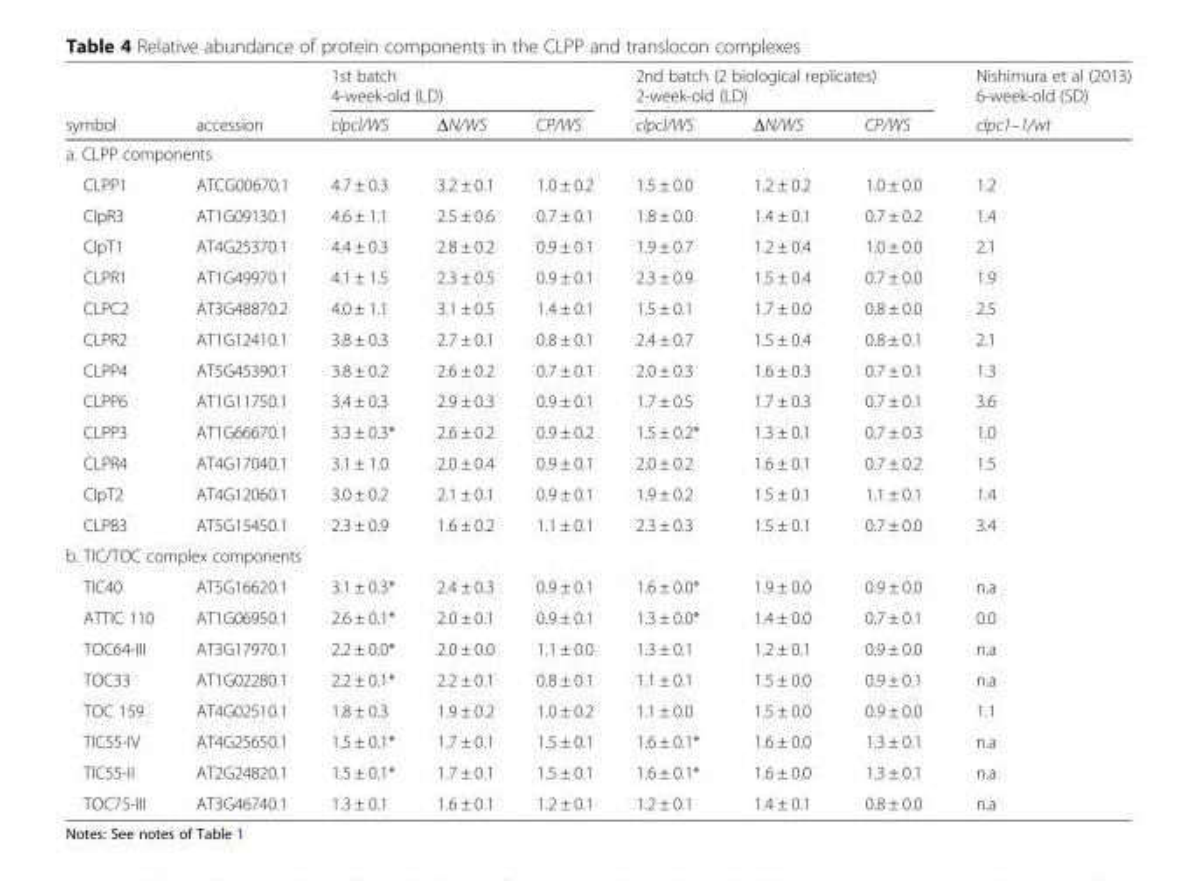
<table><thead><tr><td rowspan="2">symbol</td><td rowspan="2">accession</td><td colspan="3">1st batch 4-week-old (LD)</td><td colspan="3">2nd batch (2 biological replicates) 2-week-old (LD)</td><td rowspan="2">Nishimura et al (2013) 6-week-old (SD) clpc1–1/wt</td></tr><tr><td>clpcl/WS</td><td>ΔN/WS</td><td>CP/WS</td><td>clpcl/WS</td><td>ΔN/WS</td><td>CP/WS</td></tr></thead><tbody><tr><td colspan="9">a. CLPP components</td></tr><tr><td>CLPP1</td><td>ATCG00670.1</td><td>4.7 ± 0.3</td><td>3.2 ± 0.1</td><td>1.0 ± 0.2</td><td>1.5 ± 0.0</td><td>1.2 ± 0.2</td><td>1.0 ± 0.0</td><td>1.2</td></tr><tr><td>ClpR3</td><td>AT1G09130.1</td><td>4.6 ± 1.1</td><td>2.5 ± 0.6</td><td>0.7 ± 0.1</td><td>1.8 ± 0.0</td><td>1.4 ± 0.1</td><td>0.7 ± 0.2</td><td>1.4</td></tr><tr><td>ClpT1</td><td>AT4G25370.1</td><td>4.4 ± 0.3</td><td>2.8 ± 0.2</td><td>0.9 ± 0.1</td><td>1.9 ± 0.7</td><td>1.2 ± 0.4</td><td>1.0 ± 0.0</td><td>2.1</td></tr><tr><td>CLPR1</td><td>AT1G49970.1</td><td>4.1 ± 1.5</td><td>2.3 ± 0.5</td><td>0.9 ± 0.1</td><td>2.3 ± 0.9</td><td>1.5 ± 0.4</td><td>0.7 ± 0.0</td><td>1.9</td></tr><tr><td>CLPC2</td><td>AT3G48870.2</td><td>4.0 ± 1.1</td><td>3.1 ± 0.5</td><td>1.4 ± 0.1</td><td>1.5 ± 0.1</td><td>1.7 ± 0.0</td><td>0.8 ± 0.0</td><td>2.5</td></tr><tr><td>CLPR2</td><td>AT1G12410.1</td><td>3.8 ± 0.3</td><td>2.7 ± 0.1</td><td>0.8 ± 0.1</td><td>2.4 ± 0.7</td><td>1.5 ± 0.4</td><td>0.8 ± 0.1</td><td>2.1</td></tr><tr><td>CLPP4</td><td>AT5G45390.1</td><td>3.8 ± 0.2</td><td>2.6 ± 0.2</td><td>0.7 ± 0.1</td><td>2.0 ± 0.3</td><td>1.6 ± 0.3</td><td>0.7 ± 0.1</td><td>1.3</td></tr><tr><td>CLPP6</td><td>AT1G11750.1</td><td>3.4 ± 0.3</td><td>2.9 ± 0.3</td><td>0.9 ± 0.1</td><td>1.7 ± 0.5</td><td>1.7 ± 0.3</td><td>0.7 ± 0.1</td><td>3.6</td></tr><tr><td>CLPP3</td><td>AT1G66670.1</td><td>3.3 ± 0.3*</td><td>2.6 ± 0.2</td><td>0.9 ± 0.2</td><td>1.5 ± 0.2*</td><td>1.3 ± 0.1</td><td>0.7 ± 0.3</td><td>1.0</td></tr><tr><td>CLPR4</td><td>AT4G17040.1</td><td>3.1 ± 1.0</td><td>2.0 ± 0.4</td><td>0.9 ± 0.1</td><td>2.0 ± 0.2</td><td>1.6 ± 0.1</td><td>0.7 ± 0.2</td><td>1.5</td></tr><tr><td>ClpT2</td><td>AT4G12060.1</td><td>3.0 ± 0.2</td><td>2.1 ± 0.1</td><td>0.9 ± 0.1</td><td>1.9 ± 0.2</td><td>1.5 ± 0.1</td><td>1.1 ± 0.1</td><td>1.4</td></tr><tr><td>CLPB3</td><td>AT5G15450.1</td><td>2.3 ± 0.9</td><td>1.6 ± 0.2</td><td>1.1 ± 0.1</td><td>2.3 ± 0.3</td><td>1.5 ± 0.1</td><td>0.7 ± 0.0</td><td>3.4</td></tr><tr><td colspan="9">b. TIC/TOC complex components</td></tr><tr><td>TIC40</td><td>AT5G16620.1</td><td>3.1 ± 0.3*</td><td>2.4 ± 0.3</td><td>0.9 ± 0.1</td><td>1.6 ± 0.0*</td><td>1.9 ± 0.0</td><td>0.9 ± 0.0</td><td>n.a</td></tr><tr><td>ATTIC 110</td><td>AT1G06950.1</td><td>2.6 ± 0.1*</td><td>2.0 ± 0.1</td><td>0.9 ± 0.1</td><td>1.3 ± 0.0*</td><td>1.4 ± 0.0</td><td>0.7 ± 0.1</td><td>0.0</td></tr><tr><td>TOC64-III</td><td>AT3G17970.1</td><td>2.2 ± 0.0*</td><td>2.0 ± 0.0</td><td>1.1 ± 0.0</td><td>1.3 ± 0.1</td><td>1.2 ± 0.1</td><td>0.9 ± 0.0</td><td>n.a</td></tr><tr><td>TOC33</td><td>AT1G02280.1</td><td>2.2 ± 0.1*</td><td>2.2 ± 0.1</td><td>0.8 ± 0.1</td><td>1.1 ± 0.1</td><td>1.5 ± 0.0</td><td>0.9 ± 0.1</td><td>n.a</td></tr><tr><td>TOC 159</td><td>AT4G02510.1</td><td>1.8 ± 0.3</td><td>1.9 ± 0.2</td><td>1.0 ± 0.2</td><td>1.1 ± 0.0</td><td>1.5 ± 0.0</td><td>0.9 ± 0.0</td><td>1.1</td></tr><tr><td>TIC55-IV</td><td>AT4G25650.1</td><td>1.5 ± 0.1*</td><td>1.7 ± 0.1</td><td>1.5 ± 0.1</td><td>1.6 ± 0.1*</td><td>1.6 ± 0.0</td><td>1.3 ± 0.1</td><td>n.a</td></tr><tr><td>TIC55-II</td><td>AT2G24820.1</td><td>1.5 ± 0.1*</td><td>1.7 ± 0.1</td><td>1.5 ± 0.1</td><td>1.6 ± 0.1*</td><td>1.6 ± 0.0</td><td>1.3 ± 0.1</td><td>n.a</td></tr><tr><td>TOC75-III</td><td>AT3G46740.1</td><td>1.3 ± 0.1</td><td>1.6 ± 0.1</td><td>1.2 ± 0.1</td><td>1.2 ± 0.1</td><td>1.4 ± 0.1</td><td>0.8 ± 0.0</td><td>n.a</td></tr></tbody></table>